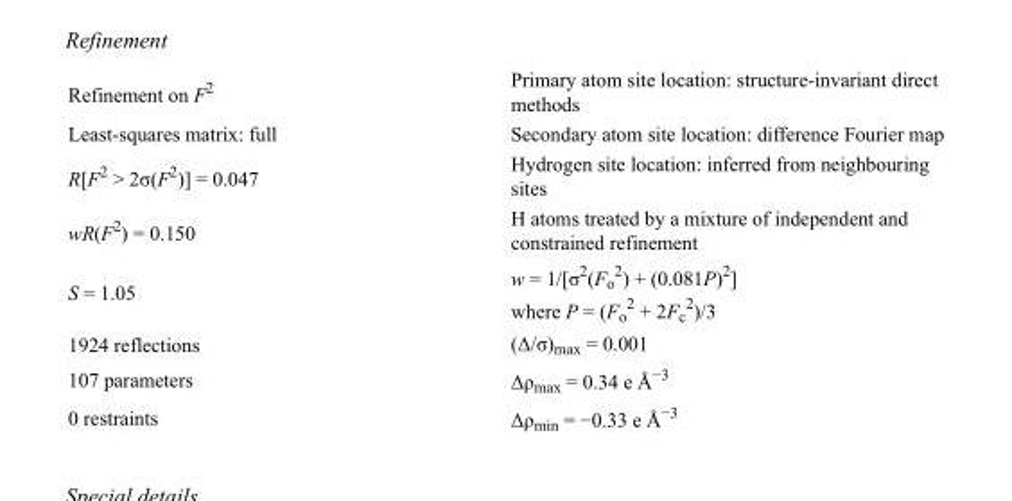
<table><tbody><tr><td>Refinement on F<sup>2</sup></td><td>Primary atom site location: structure-invariant direct methods</td></tr><tr><td>Least-squares matrix: full</td><td>Secondary atom site location: difference Fourier map</td></tr><tr><td>R[F<sup>2</sup> &gt; 2σ(F<sup>2</sup>)] = 0.047</td><td>Hydrogen site location: inferred from neighbouring sites</td></tr><tr><td>wR(F<sup>2</sup>) = 0.150</td><td>H atoms treated by a mixture of independent and constrained refinement</td></tr><tr><td>S = 1.05</td><td>w = 1/[σ<sup>2</sup>(F<sub>o</sub> <sup>2</sup>) + (0.081P)<sup>2</sup>] where P = (F<sub>o</sub> <sup>2</sup> + 2F<sub>c</sub> <sup>2</sup>)/3</td></tr><tr><td>1924 reflections</td><td>(Δ/σ)<sub>max</sub> = 0.001</td></tr><tr><td>107 parameters</td><td>Δρ<sub>max</sub> = 0.34 e Å<sup>−3</sup></td></tr><tr><td>0 restraints</td><td>Δρ<sub>min</sub> = −0.33 e Å<sup>−3</sup></td></tr></tbody></table>